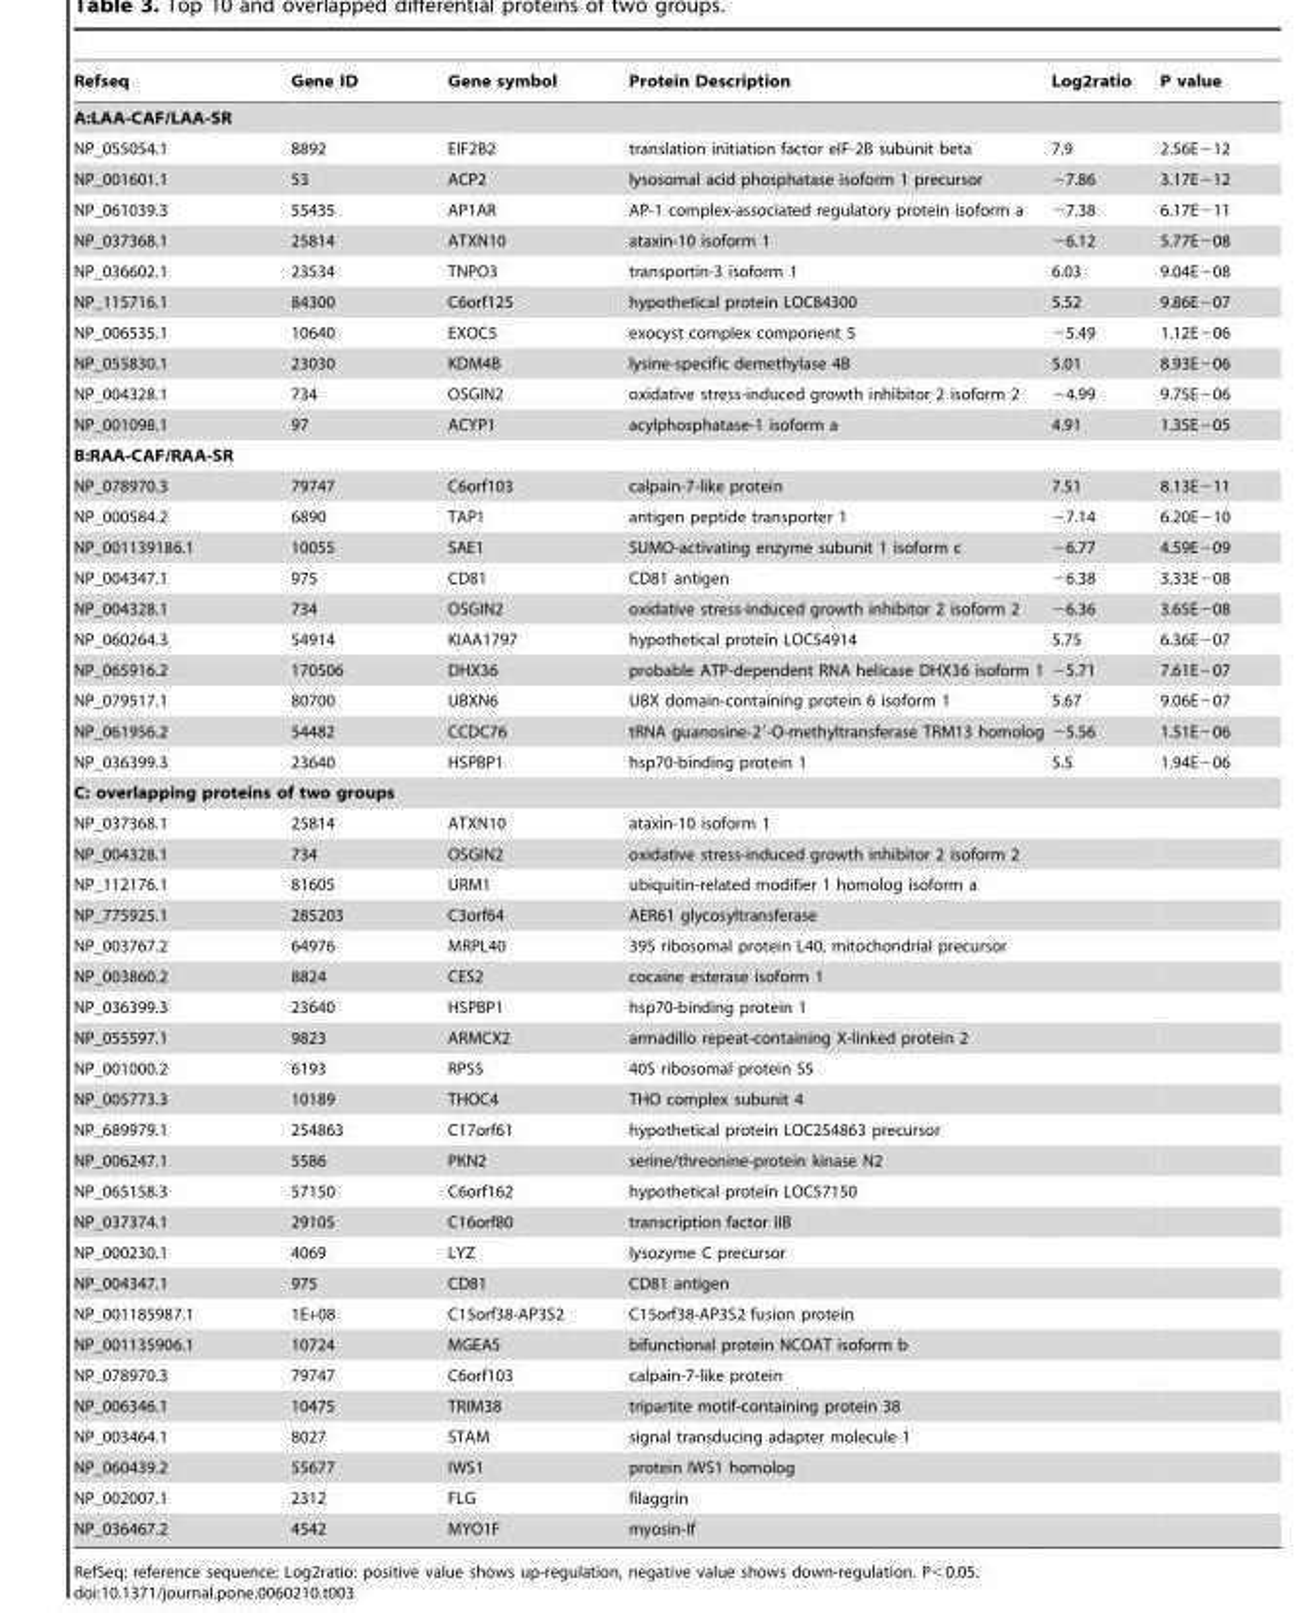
<table><thead><tr><td>Refseq</td><td>Gene ID</td><td>Gene symbol</td><td>Protein Description</td><td>Log2ratio</td><td>P value</td></tr></thead><tbody><tr><td colspan="6">A:LAA-CAF/LAA-SR</td></tr><tr><td>NP_055054.1</td><td>8892</td><td>EIF2B2</td><td>translation initiation factor eIF-2B subunit beta</td><td>7.9</td><td>2.56E−12</td></tr><tr><td>NP_001601.1</td><td>53</td><td>ACP2</td><td>lysosomal acid phosphatase isoform 1 precursor</td><td>−7.86</td><td>3.17E−12</td></tr><tr><td>NP_061039.3</td><td>55435</td><td>AP1AR</td><td>AP-1 complex-associated regulatory protein isoform a</td><td>−7.38</td><td>6.17E−11</td></tr><tr><td>NP_037368.1</td><td>25814</td><td>ATXN10</td><td>ataxin-10 isoform 1</td><td>−6.12</td><td>5.77E−08</td></tr><tr><td>NP_036602.1</td><td>23534</td><td>TNPO3</td><td>transportin-3 isoform 1</td><td>6.03</td><td>9.04E−08</td></tr><tr><td>NP_115716.1</td><td>84300</td><td>C6orf125</td><td>hypothetical protein LOC84300</td><td>5.52</td><td>9.86E−07</td></tr><tr><td>NP_006535.1</td><td>10640</td><td>EXOC5</td><td>exocyst complex component 5</td><td>−5.49</td><td>1.12E−06</td></tr><tr><td>NP_055830.1</td><td>23030</td><td>KDM4B</td><td>lysine-specific demethylase 4B</td><td>5.01</td><td>8.93E−06</td></tr><tr><td>NP_004328.1</td><td>734</td><td>OSGIN2</td><td>oxidative stress-induced growth inhibitor 2 isoform 2</td><td>−4.99</td><td>9.75E−06</td></tr><tr><td>NP_001098.1</td><td>97</td><td>ACYP1</td><td>acylphosphatase-1 isoform a</td><td>4.91</td><td>1.35E−05</td></tr><tr><td colspan="6">B:RAA-CAF/RAA-SR</td></tr><tr><td>NP_078970.3</td><td>79747</td><td>C6orf103</td><td>calpain-7-like protein</td><td>7.51</td><td>8.13E−11</td></tr><tr><td>NP_000584.2</td><td>6890</td><td>TAP1</td><td>antigen peptide transporter 1</td><td>−7.14</td><td>6.20E−10</td></tr><tr><td>NP_001139186.1</td><td>10055</td><td>SAE1</td><td>SUMO-activating enzyme subunit 1 isoform c</td><td>−6.77</td><td>4.59E−09</td></tr><tr><td>NP_004347.1</td><td>975</td><td>CD81</td><td>CD81 antigen</td><td>−6.38</td><td>3.33E−08</td></tr><tr><td>NP_004328.1</td><td>734</td><td>OSGIN2</td><td>oxidative stress-induced growth inhibitor 2 isoform 2</td><td>−6.36</td><td>3.65E−08</td></tr><tr><td>NP_060264.3</td><td>54914</td><td>KIAA1797</td><td>hypothetical protein LOC54914</td><td>5.75</td><td>6.36E−07</td></tr><tr><td>NP_065916.2</td><td>170506</td><td>DHX36</td><td>probable ATP-dependent RNA helicase DHX36 isoform 1</td><td>−5.71</td><td>7.61E−07</td></tr><tr><td>NP_079517.1</td><td>80700</td><td>UBXN6</td><td>UBX domain-containing protein 6 isoform 1</td><td>5.67</td><td>9.06E−07</td></tr><tr><td>NP_061956.2</td><td>54482</td><td>CCDC76</td><td>tRNA guanosine-2′-O-methyltransferase TRM13 homolog</td><td>−5.56</td><td>1.51E−06</td></tr><tr><td>NP_036399.3</td><td>23640</td><td>HSPBP1</td><td>hsp70-binding protein 1</td><td>5.5</td><td>1.94E−06</td></tr><tr><td colspan="6">C: overlapping proteins of two groups</td></tr><tr><td>NP_037368.1</td><td>25814</td><td>ATXN10</td><td>ataxin-10 isoform 1</td><td></td><td></td></tr><tr><td>NP_004328.1</td><td>734</td><td>OSGIN2</td><td>oxidative stress-induced growth inhibitor 2 isoform 2</td><td></td><td></td></tr><tr><td>NP_112176.1</td><td>81605</td><td>URM1</td><td>ubiquitin-related modifier 1 homolog isoform a</td><td></td><td></td></tr><tr><td>NP_775925.1</td><td>285203</td><td>C3orf64</td><td>AER61 glycosyltransferase</td><td></td><td></td></tr><tr><td>NP_003767.2</td><td>64976</td><td>MRPL40</td><td>39S ribosomal protein L40, mitochondrial precursor</td><td></td><td></td></tr><tr><td>NP_003860.2</td><td>8824</td><td>CES2</td><td>cocaine esterase isoform 1</td><td></td><td></td></tr><tr><td>NP_036399.3</td><td>23640</td><td>HSPBP1</td><td>hsp70-binding protein 1</td><td></td><td></td></tr><tr><td>NP_055597.1</td><td>9823</td><td>ARMCX2</td><td>armadillo repeat-containing X-linked protein 2</td><td></td><td></td></tr><tr><td>NP_001000.2</td><td>6193</td><td>RPS5</td><td>40S ribosomal protein S5</td><td></td><td></td></tr><tr><td>NP_005773.3</td><td>10189</td><td>THOC4</td><td>THO complex subunit 4</td><td></td><td></td></tr><tr><td>NP_689979.1</td><td>254863</td><td>C17orf61</td><td>hypothetical protein LOC254863 precursor</td><td></td><td></td></tr><tr><td>NP_006247.1</td><td>5586</td><td>PKN2</td><td>serine/threonine-protein kinase N2</td><td></td><td></td></tr><tr><td>NP_065158.3</td><td>57150</td><td>C6orf162</td><td>hypothetical protein LOC57150</td><td></td><td></td></tr><tr><td>NP_037374.1</td><td>29105</td><td>C16orf80</td><td>transcription factor IIB</td><td></td><td></td></tr><tr><td>NP_000230.1</td><td>4069</td><td>LYZ</td><td>lysozyme C precursor</td><td></td><td></td></tr><tr><td>NP_004347.1</td><td>975</td><td>CD81</td><td>CD81 antigen</td><td></td><td></td></tr><tr><td>NP_001185987.1</td><td>1E+08</td><td>C15orf38-AP3S2</td><td>C15orf38-AP3S2 fusion protein</td><td></td><td></td></tr><tr><td>NP_001135906.1</td><td>10724</td><td>MGEA5</td><td>bifunctional protein NCOAT isoform b</td><td></td><td></td></tr><tr><td>NP_078970.3</td><td>79747</td><td>C6orf103</td><td>calpain-7-like protein</td><td></td><td></td></tr><tr><td>NP_006346.1</td><td>10475</td><td>TRIM38</td><td>tripartite motif-containing protein 38</td><td></td><td></td></tr><tr><td>NP_003464.1</td><td>8027</td><td>STAM</td><td>signal transducing adapter molecule 1</td><td></td><td></td></tr><tr><td>NP_060439.2</td><td>55677</td><td>IWS1</td><td>protein IWS1 homolog</td><td></td><td></td></tr><tr><td>NP_002007.1</td><td>2312</td><td>FLG</td><td>filaggrin</td><td></td><td></td></tr><tr><td>NP_036467.2</td><td>4542</td><td>MYO1F</td><td>myosin-If</td><td></td><td></td></tr></tbody></table>